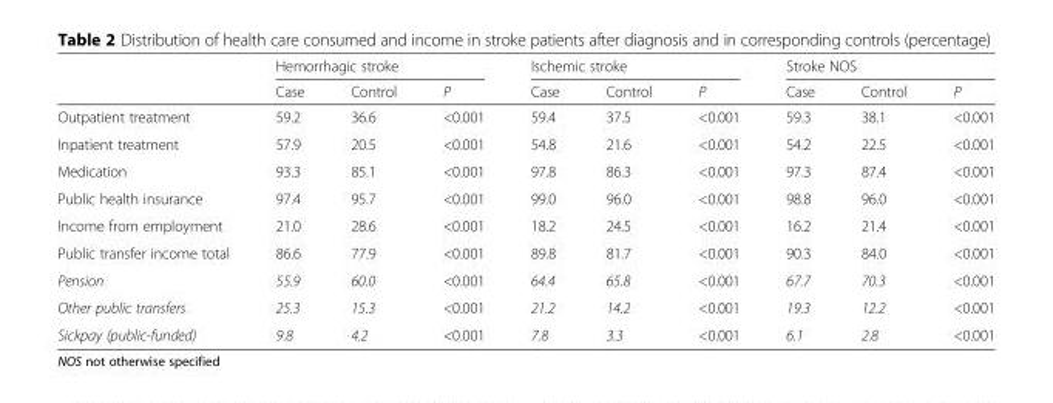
<table><thead><tr><td rowspan="2"></td><td colspan="3">Hemorrhagic stroke</td><td colspan="3">Ischemic stroke</td><td colspan="3">Stroke NOS</td></tr><tr><td>Case</td><td>Control</td><td>P</td><td>Case</td><td>Control</td><td>P</td><td>Case</td><td>Control</td><td>P</td></tr></thead><tbody><tr><td>Outpatient treatment</td><td>59.2</td><td>36.6</td><td>&lt;0.001</td><td>59.4</td><td>37.5</td><td>&lt;0.001</td><td>59.3</td><td>38.1</td><td>&lt;0.001</td></tr><tr><td>Inpatient treatment</td><td>57.9</td><td>20.5</td><td>&lt;0.001</td><td>54.8</td><td>21.6</td><td>&lt;0.001</td><td>54.2</td><td>22.5</td><td>&lt;0.001</td></tr><tr><td>Medication</td><td>93.3</td><td>85.1</td><td>&lt;0.001</td><td>97.8</td><td>86.3</td><td>&lt;0.001</td><td>97.3</td><td>87.4</td><td>&lt;0.001</td></tr><tr><td>Public health insurance</td><td>97.4</td><td>95.7</td><td>&lt;0.001</td><td>99.0</td><td>96.0</td><td>&lt;0.001</td><td>98.8</td><td>96.0</td><td>&lt;0.001</td></tr><tr><td>Income from employment</td><td>21.0</td><td>28.6</td><td>&lt;0.001</td><td>18.2</td><td>24.5</td><td>&lt;0.001</td><td>16.2</td><td>21.4</td><td>&lt;0.001</td></tr><tr><td>Public transfer income total</td><td>86.6</td><td>77.9</td><td>&lt;0.001</td><td>89.8</td><td>81.7</td><td>&lt;0.001</td><td>90.3</td><td>84.0</td><td>&lt;0.001</td></tr><tr><td>Pension</td><td>55.9</td><td>60.0</td><td>&lt;0.001</td><td>64.4</td><td>65.8</td><td>&lt;0.001</td><td>67.7</td><td>70.3</td><td>&lt;0.001</td></tr><tr><td>Other public transfers</td><td>25.3</td><td>15.3</td><td>&lt;0.001</td><td>21.2</td><td>14.2</td><td>&lt;0.001</td><td>19.3</td><td>12.2</td><td>&lt;0.001</td></tr><tr><td>Sickpay (public-funded)</td><td>9.8</td><td>4.2</td><td>&lt;0.001</td><td>7.8</td><td>3.3</td><td>&lt;0.001</td><td>6.1</td><td>2.8</td><td>&lt;0.001</td></tr></tbody></table>